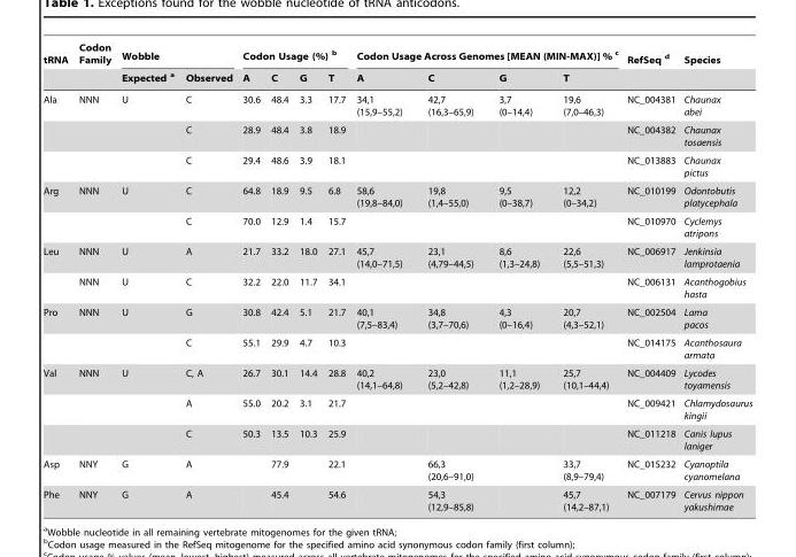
<table><thead><tr><td rowspan="2">tRNA</td><td rowspan="2">Codon Family</td><td colspan="2">Wobble</td><td colspan="4">Codon Usage (%) b</td><td colspan="4">Codon Usage Across Genomes [MEAN (MIN-MAX)] % c</td><td rowspan="2">RefSeq d</td><td rowspan="2">Species</td></tr><tr><td>Expected a</td><td>Observed</td><td>A</td><td>C</td><td>G</td><td>T</td><td>A</td><td>C</td><td>G</td><td>T</td></tr></thead><tbody><tr><td rowspan="3">Ala</td><td>NNN</td><td>U</td><td>C</td><td>30.6</td><td>48.4</td><td>3.3</td><td>17.7</td><td>34,1 (15,9–55,2)</td><td>42,7 (16,3–65,9)</td><td>3,7 (0–14,4)</td><td>19,6 (7,0–46,3)</td><td>NC_004381</td><td>Chaunax abei</td></tr><tr><td></td><td></td><td>C</td><td>28.9</td><td>48.4</td><td>3.8</td><td>18.9</td><td></td><td></td><td></td><td></td><td>NC_004382</td><td>Chaunax tosaensis</td></tr><tr><td></td><td></td><td>C</td><td>29.4</td><td>48.6</td><td>3.9</td><td>18.1</td><td></td><td></td><td></td><td></td><td>NC_013883</td><td>Chaunax pictus</td></tr><tr><td rowspan="2">Arg</td><td>NNN</td><td>U</td><td>C</td><td>64.8</td><td>18.9</td><td>9.5</td><td>6.8</td><td>58,6 (19,8–84,0)</td><td>19,8 (1,4–55,0)</td><td>9,5 (0–38,7)</td><td>12,2 (0–34,2)</td><td>NC_010199</td><td>Odontobutis platycephala</td></tr><tr><td></td><td></td><td>C</td><td>70.0</td><td>12.9</td><td>1.4</td><td>15.7</td><td></td><td></td><td></td><td></td><td>NC_010970</td><td>Cyclemys atripons</td></tr><tr><td rowspan="2">Leu</td><td>NNN</td><td>U</td><td>A</td><td>21.7</td><td>33.2</td><td>18.0</td><td>27.1</td><td>45,7 (14,0–71,5)</td><td>23,1 (4,79–44,5)</td><td>8,6 (1,3–24,8)</td><td>22,6 (5,5–51,3)</td><td>NC_006917</td><td>Jenkinsia lamprotaenia</td></tr><tr><td>NNN</td><td>U</td><td>C</td><td>32.2</td><td>22.0</td><td>11.7</td><td>34.1</td><td></td><td></td><td></td><td></td><td>NC_006131</td><td>Acanthogobius hasta</td></tr><tr><td rowspan="2">Pro</td><td>NNN</td><td>U</td><td>G</td><td>30.8</td><td>42.4</td><td>5.1</td><td>21.7</td><td>40,1 (7,5–83,4)</td><td>34,8 (3,7–70,6)</td><td>4,3 (0–16,4)</td><td>20,7 (4,3–52,1)</td><td>NC_002504</td><td>Lama pacos</td></tr><tr><td></td><td></td><td>C</td><td>55.1</td><td>29.9</td><td>4.7</td><td>10.3</td><td></td><td></td><td></td><td></td><td>NC_014175</td><td>Acanthosaura armata</td></tr><tr><td rowspan="3">Val</td><td>NNN</td><td>U</td><td>C, A</td><td>26.7</td><td>30.1</td><td>14.4</td><td>28.8</td><td>40,2 (14,1–64,8)</td><td>23,0 (5,2–42,8)</td><td>11,1 (1,2–28,9)</td><td>25,7 (10,1–44,4)</td><td>NC_004409</td><td>Lycodes toyamensis</td></tr><tr><td></td><td></td><td>A</td><td>55.0</td><td>20.2</td><td>3.1</td><td>21.7</td><td></td><td></td><td></td><td></td><td>NC_009421</td><td>Chlamydosaurus kingii</td></tr><tr><td></td><td></td><td>C</td><td>50.3</td><td>13.5</td><td>10.3</td><td>25.9</td><td></td><td></td><td></td><td></td><td>NC_011218</td><td>Canis lupus laniger</td></tr><tr><td>Asp</td><td>NNY</td><td>G</td><td>A</td><td></td><td>77.9</td><td></td><td>22.1</td><td></td><td>66,3 (20,6–91,0)</td><td></td><td>33,7 (8,9–79,4)</td><td>NC_015232</td><td>Cyanoptila cyanomelana</td></tr><tr><td>Phe</td><td>NNY</td><td>G</td><td>A</td><td></td><td>45.4</td><td></td><td>54.6</td><td></td><td>54,3 (12,9–85,8)</td><td></td><td>45,7 (14,2–87,1)</td><td>NC_007179</td><td>Cervus nippon yakushimae</td></tr></tbody></table>